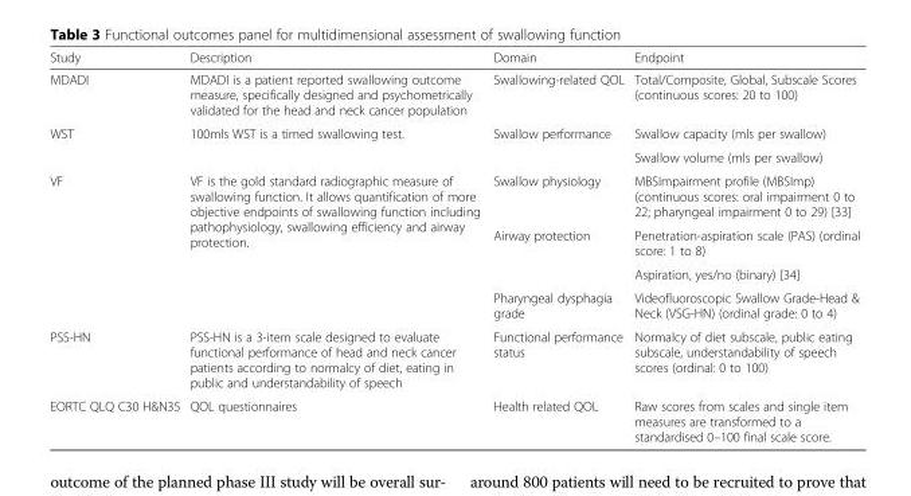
<table><thead><tr><td>Study</td><td>Description</td><td>Domain</td><td>Endpoint</td></tr></thead><tbody><tr><td>MDADI</td><td>MDADI is a patient reported swallowing outcome measure, specifically designed and psychometrically validated for the head and neck cancer population</td><td>Swallowing-related QOL</td><td>Total/Composite, Global, Subscale Scores (continuous scores: 20 to 100)</td></tr><tr><td rowspan="2">WST</td><td rowspan="2">100mls WST is a timed swallowing test.</td><td rowspan="2">Swallow performance</td><td>Swallow capacity (mls per swallow)</td></tr><tr><td>Swallow volume (mls per swallow)</td></tr><tr><td rowspan="4">VF</td><td rowspan="4">VF is the gold standard radiographic measure of swallowing function. It allows quantification of more objective endpoints of swallowing function including pathophysiology, swallowing efficiency and airway protection.</td><td>Swallow physiology</td><td>MBSImpairment profile (MBSImp) (continuous scores: oral impairment 0 to 22; pharyngeal impairment 0 to 29) [33]</td></tr><tr><td rowspan="2">Airway protection</td><td>Penetration-aspiration scale (PAS) (ordinal score: 1 to 8)</td></tr><tr><td>Aspiration, yes/no (binary) [34]</td></tr><tr><td>Pharyngeal dysphagia grade</td><td>Videofluoroscopic Swallow Grade-Head &amp; Neck (VSG-HN) (ordinal grade: 0 to 4)</td></tr><tr><td>PSS-HN</td><td>PSS-HN is a 3-item scale designed to evaluate functional performance of head and neck cancer patients according to normalcy of diet, eating in public and understandability of speech</td><td>Functional performance status</td><td>Normalcy of diet subscale, public eating subscale, understandability of speech scores (ordinal: 0 to 100)</td></tr><tr><td>EORTC QLQ C30 H&amp;N35</td><td>QOL questionnaires</td><td>Health related QOL</td><td>Raw scores from scales and single item measures are transformed to a standardised 0–100 final scale score.</td></tr></tbody></table>